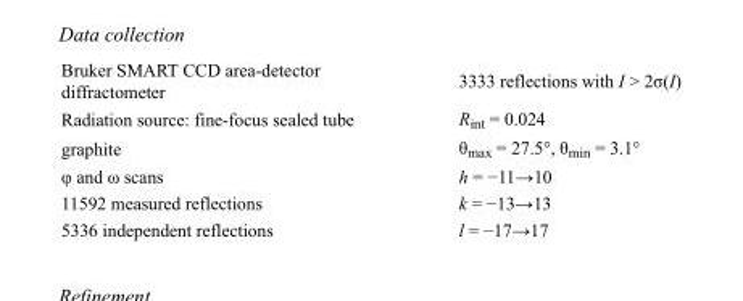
<table><tbody><tr><td>Bruker SMART CCD area-detector diffractometer</td><td>3333 reflections with I &gt; 2σ(I)</td></tr><tr><td>Radiation source: fine-focus sealed tube</td><td>R<sub>int</sub> = 0.024</td></tr><tr><td>graphite</td><td>θ<sub>max</sub> = 27.5°, θ<sub>min</sub> = 3.1°</td></tr><tr><td>φ and ω scans</td><td>h = −11→10</td></tr><tr><td>11592 measured reflections</td><td>k = −13→13</td></tr><tr><td>5336 independent reflections</td><td>l = −17→17</td></tr></tbody></table>